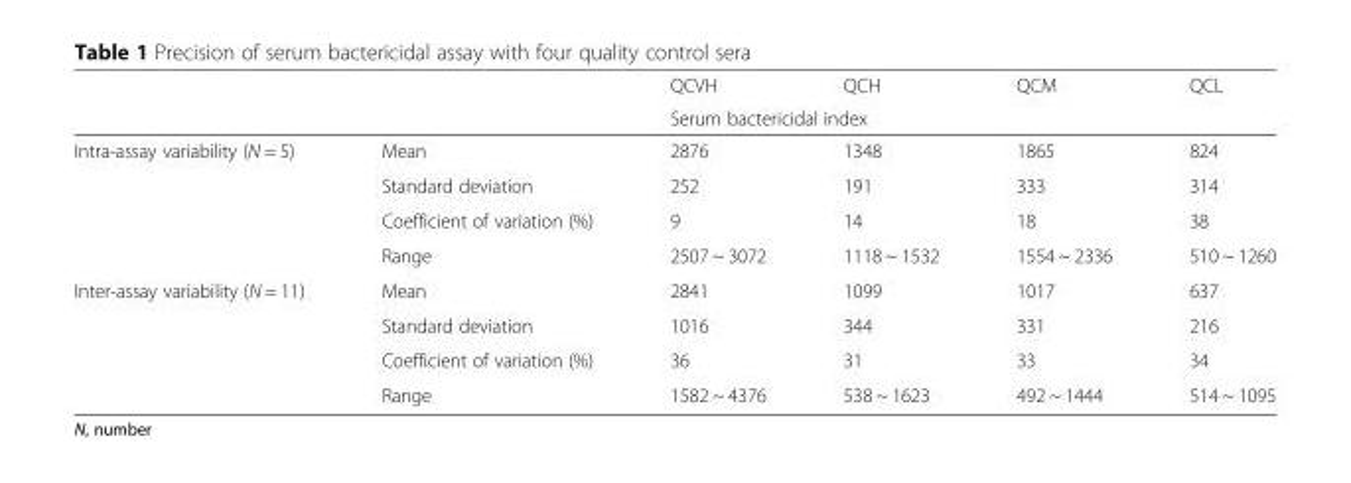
<table><thead><tr><td rowspan="2"></td><td rowspan="2"></td><td>QCVH</td><td>QCH</td><td>QCM</td><td>QCL</td></tr><tr><td colspan="4">Serum bactericidal index</td></tr></thead><tbody><tr><td rowspan="4">Intra-assay variability (N = 5)</td><td>Mean</td><td>2876</td><td>1348</td><td>1865</td><td>824</td></tr><tr><td>Standard deviation</td><td>252</td><td>191</td><td>333</td><td>314</td></tr><tr><td>Coefficient of variation (%)</td><td>9</td><td>14</td><td>18</td><td>38</td></tr><tr><td>Range</td><td>2507 ~ 3072</td><td>1118 ~ 1532</td><td>1554 ~ 2336</td><td>510 ~ 1260</td></tr><tr><td rowspan="4">Inter-assay variability (N = 11)</td><td>Mean</td><td>2841</td><td>1099</td><td>1017</td><td>637</td></tr><tr><td>Standard deviation</td><td>1016</td><td>344</td><td>331</td><td>216</td></tr><tr><td>Coefficient of variation (%)</td><td>36</td><td>31</td><td>33</td><td>34</td></tr><tr><td>Range</td><td>1582 ~ 4376</td><td>538 ~ 1623</td><td>492 ~ 1444</td><td>514 ~ 1095</td></tr></tbody></table>